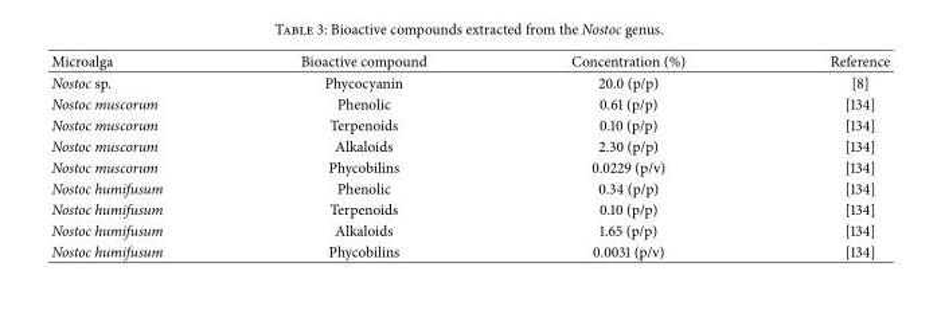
<table><tbody><tr><td>Microalga</td><td>Bioactive compound</td><td>Concentration (%)</td><td>Reference</td></tr><tr><td>Nostoc sp.</td><td>Phycocyanin</td><td>20.0 (p/p)</td><td>[8]</td></tr><tr><td>Nostoc muscorum</td><td>Phenolic</td><td>0.61 (p/p)</td><td>[134]</td></tr><tr><td>Nostoc muscorum</td><td>Terpenoids</td><td>0.10 (p/p)</td><td>[134]</td></tr><tr><td>Nostoc muscorum</td><td>Alkaloids</td><td>2.30 (p/p)</td><td>[134]</td></tr><tr><td>Nostoc muscorum</td><td>Phycobilins</td><td>0.0229 (p/v)</td><td>[134]</td></tr><tr><td>Nostoc humifusum</td><td>Phenolic</td><td>0.34 (p/p)</td><td>[134]</td></tr><tr><td>Nostoc humifusum</td><td>Terpenoids</td><td>0.10 (p/p)</td><td>[134]</td></tr><tr><td>Nostoc humifusum</td><td>Alkaloids</td><td>1.65 (p/p)</td><td>[134]</td></tr><tr><td>Nostoc humifusum</td><td>Phycobilins</td><td>0.0031 (p/v)</td><td>[134]</td></tr></tbody></table>